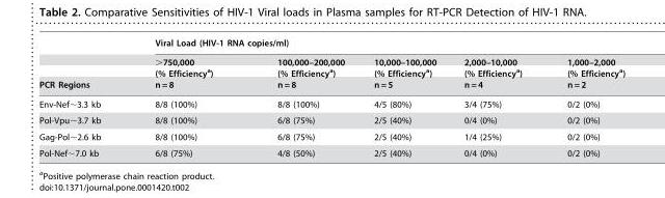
<table><thead><tr><td rowspan="4">PCR Regions</td><td colspan="5">Viral Load (HIV-1 RNA copies/ml)</td></tr><tr><td rowspan="3">&gt;750,000 (% Efficiency<sup>a</sup>) n = 8</td><td rowspan="3">100,000–200,000 (% Efficiency<sup>a</sup>) n = 8</td><td rowspan="3">10,000–100,000 (% Efficiency<sup>a</sup>) n = 5</td><td rowspan="3">2,000–10,000 (% Efficiency<sup>a</sup>) n = 4</td><td rowspan="3">1,000–2,000 (% Efficiency<sup>a</sup>) n = 2</td></tr><tr></tr><tr></tr></thead><tbody><tr><td>Env-Nef∼3.3 kb</td><td>8/8 (100%)</td><td>8/8 (100%)</td><td>4/5 (80%)</td><td>3/4 (75%)</td><td>0/2 (0%)</td></tr><tr><td>Pol-Vpu∼3.7 kb</td><td>8/8 (100%)</td><td>6/8 (75%)</td><td>2/5 (40%)</td><td>0/4 (0%)</td><td>0/2 (0%)</td></tr><tr><td>Gag-Pol∼2.6 kb</td><td>8/8 (100%)</td><td>6/8 (75%)</td><td>2/5 (40%)</td><td>1/4 (25%)</td><td>0/2 (0%)</td></tr><tr><td>Pol-Nef∼7.0 kb</td><td>6/8 (75%)</td><td>4/8 (50%)</td><td>2/5 (40%)</td><td>0/4 (0%)</td><td>0/2 (0%)</td></tr></tbody></table>